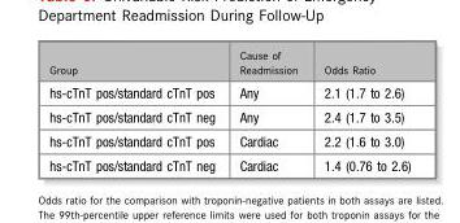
<table><thead><tr><td>Group</td><td>Cause of Readmission</td><td>Odds Ratio</td></tr></thead><tbody><tr><td>hs-cTnT pos/standard cTnT pos</td><td>Any</td><td>2.1 (1.7 to 2.6)</td></tr><tr><td>hs-cTnT pos/standard cTnT neg</td><td>Any</td><td>2.4 (1.7 to 3.5)</td></tr><tr><td>hs-cTnT pos/standard cTnT pos</td><td>Cardiac</td><td>2.2 (1.6 to 3.0)</td></tr><tr><td>hs-cTnT pos/standard cTnT neg</td><td>Cardiac</td><td>1.4 (0.76 to 2.6)</td></tr></tbody></table>